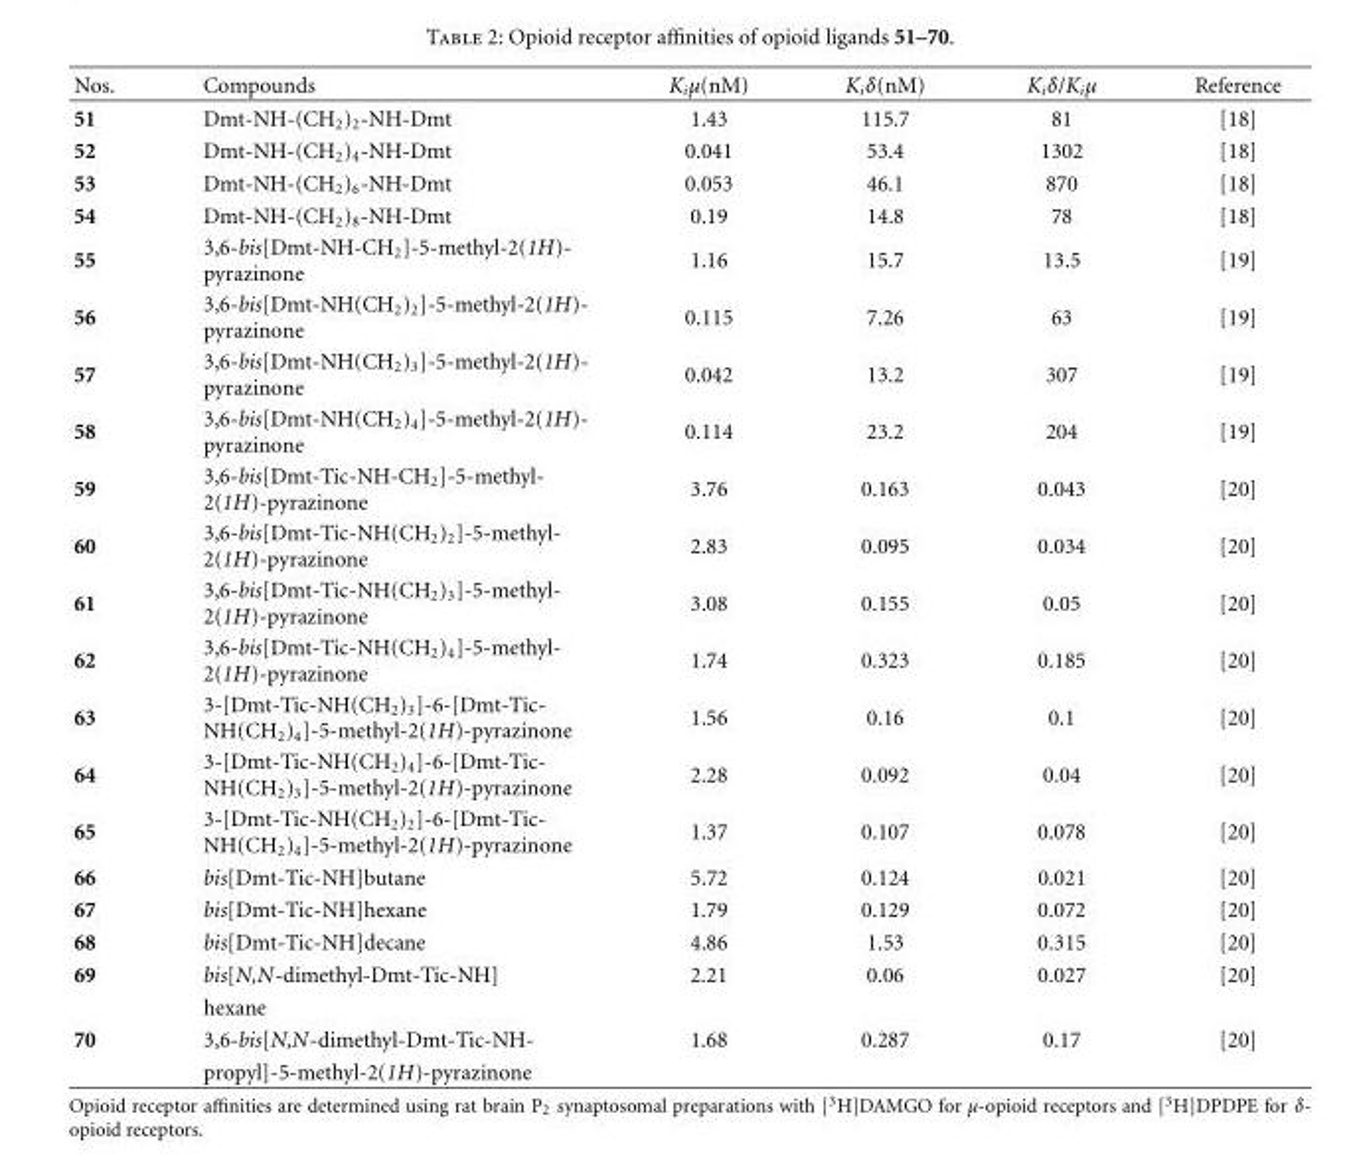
<table><thead><tr><td>Nos.</td><td>Compounds</td><td>K<sub>i</sub>μ(nM)</td><td>K<sub>i</sub>δ(nM)</td><td>K<sub>i</sub>δ/K<sub>i</sub>μ</td><td>Reference</td></tr></thead><tbody><tr><td>51</td><td>Dmt-NH-(CH<sub>2</sub>)<sub>2</sub>-NH-Dmt</td><td>1.43</td><td>115.7</td><td>81</td><td>[18]</td></tr><tr><td>52</td><td>Dmt-NH-(CH<sub>2</sub>)<sub>4</sub>-NH-Dmt</td><td>0.041</td><td>53.4</td><td>1302</td><td>[18]</td></tr><tr><td>53</td><td>Dmt-NH-(CH<sub>2</sub>)<sub>6</sub>-NH-Dmt</td><td>0.053</td><td>46.1</td><td>870</td><td>[18]</td></tr><tr><td>54</td><td>Dmt-NH-(CH<sub>2</sub>)<sub>8</sub>-NH-Dmt</td><td>0.19</td><td>14.8</td><td>78</td><td>[18]</td></tr><tr><td>55</td><td>3,6-bis[Dmt-NH-CH<sub>2</sub>]-5-methyl-2(1H)- pyrazinone</td><td>1.16</td><td>15.7</td><td>13.5</td><td>[19]</td></tr><tr><td>56</td><td>3,6-bis[Dmt-NH(CH<sub>2</sub>)<sub>2</sub>]-5-methyl-2(1H)- pyrazinone</td><td>0.115</td><td>7.26</td><td>63</td><td>[19]</td></tr><tr><td>57</td><td>3,6-bis[Dmt-NH(CH<sub>2</sub>)<sub>3</sub>]-5-methyl-2(1H)- pyrazinone</td><td>0.042</td><td>13.2</td><td>307</td><td>[19]</td></tr><tr><td>58</td><td>3,6-bis[Dmt-NH(CH<sub>2</sub>)<sub>4</sub>]-5-methyl-2(1H)- pyrazinone</td><td>0.114</td><td>23.2</td><td>204</td><td>[19]</td></tr><tr><td>59</td><td>3,6-bis[Dmt-Tic-NH-CH<sub>2</sub>]-5-methyl- 2(1H)-pyrazinone</td><td>3.76</td><td>0.163</td><td>0.043</td><td>[20]</td></tr><tr><td>60</td><td>3,6-bis[Dmt-Tic-NH(CH<sub>2</sub>)<sub>2</sub>]-5-methyl- 2(1H)-pyrazinone</td><td>2.83</td><td>0.095</td><td>0.034</td><td>[20]</td></tr><tr><td>61</td><td>3,6-bis[Dmt-Tic-NH(CH<sub>2</sub>)<sub>3</sub>]-5-methyl- 2(1H)-pyrazinone</td><td>3.08</td><td>0.155</td><td>0.05</td><td>[20]</td></tr><tr><td>62</td><td>3,6-bis[Dmt-Tic-NH(CH<sub>2</sub>)<sub>4</sub>]-5-methyl- 2(1H)-pyrazinone</td><td>1.74</td><td>0.323</td><td>0.185</td><td>[20]</td></tr><tr><td>63</td><td>3-[Dmt-Tic-NH(CH<sub>2</sub>)<sub>3</sub>]-6-[Dmt-Tic- NH(CH<sub>2</sub>)<sub>4</sub>]-5-methyl-2(1H)-pyrazinone</td><td>1.56</td><td>0.16</td><td>0.1</td><td>[20]</td></tr><tr><td>64</td><td>3-[Dmt-Tic-NH(CH<sub>2</sub>)<sub>4</sub>]-6-[Dmt-Tic- NH(CH<sub>2</sub>)<sub>3</sub>]-5-methyl-2(1H)-pyrazinone</td><td>2.28</td><td>0.092</td><td>0.04</td><td>[20]</td></tr><tr><td>65</td><td>3-[Dmt-Tic-NH(CH<sub>2</sub>)<sub>2</sub>]-6-[Dmt-Tic- NH(CH<sub>2</sub>)<sub>4</sub>]-5-methyl-2(1H)-pyrazinone</td><td>1.37</td><td>0.107</td><td>0.078</td><td>[20]</td></tr><tr><td>66</td><td>bis[Dmt-Tic-NH]butane</td><td>5.72</td><td>0.124</td><td>0.021</td><td>[20]</td></tr><tr><td>67</td><td>bis[Dmt-Tic-NH]hexane</td><td>1.79</td><td>0.129</td><td>0.072</td><td>[20]</td></tr><tr><td>68</td><td>bis[Dmt-Tic-NH]decane</td><td>4.86</td><td>1.53</td><td>0.315</td><td>[20]</td></tr><tr><td rowspan="2">69</td><td>bis[N,N-dimethyl-Dmt-Tic-NH]</td><td>2.21</td><td>0.06</td><td>0.027</td><td>[20]</td></tr><tr><td>hexane</td><td></td><td></td><td></td><td></td></tr><tr><td rowspan="2">70</td><td>3,6-bis[N,N-dimethyl-Dmt-Tic-NH-</td><td>1.68</td><td>0.287</td><td>0.17</td><td>[20]</td></tr><tr><td>propyl]-5-methyl-2(1H)-pyrazinone</td><td></td><td></td><td></td><td></td></tr></tbody></table>